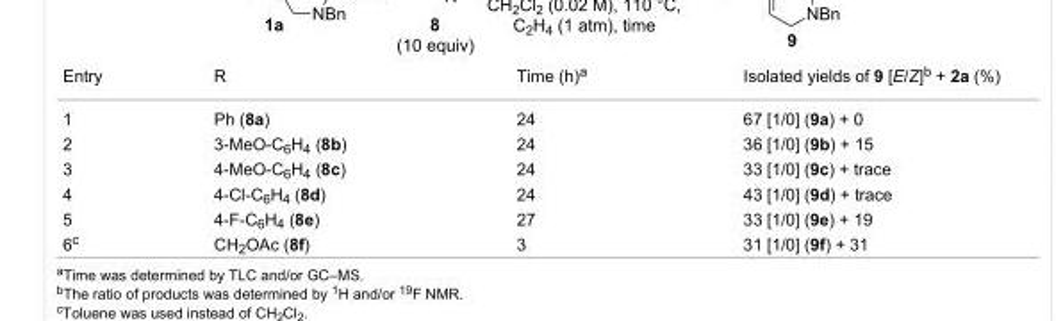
<table><tbody><tr><td>Entry</td><td>R</td><td>Time (h)<sup>a</sup></td><td>Isolated yields of 9 [E/Z]<sup>b</sup> + 2a (%)</td></tr><tr><td>1</td><td>Ph (8a)</td><td>24</td><td>67 [1/0] (9a) + 0</td></tr><tr><td>2</td><td>3-MeO-C<sub>6</sub>H<sub>4</sub> (8b)</td><td>24</td><td>36 [1/0] (9b) + 15</td></tr><tr><td>3</td><td>4-MeO-C<sub>6</sub>H<sub>4</sub> (8c)</td><td>24</td><td>33 [1/0] (9c) + trace</td></tr><tr><td>4</td><td>4-Cl-C<sub>6</sub>H<sub>4</sub> (8d)</td><td>24</td><td>43 [1/0] (9d) + trace</td></tr><tr><td>5</td><td>4-F-C<sub>6</sub>H<sub>4</sub> (8e)</td><td>27</td><td>33 [1/0] (9e) + 19</td></tr><tr><td>6<sup>c</sup></td><td>CH<sub>2</sub>OAc (8f)</td><td>3</td><td>31 [1/0] (9f) + 31</td></tr></tbody></table>